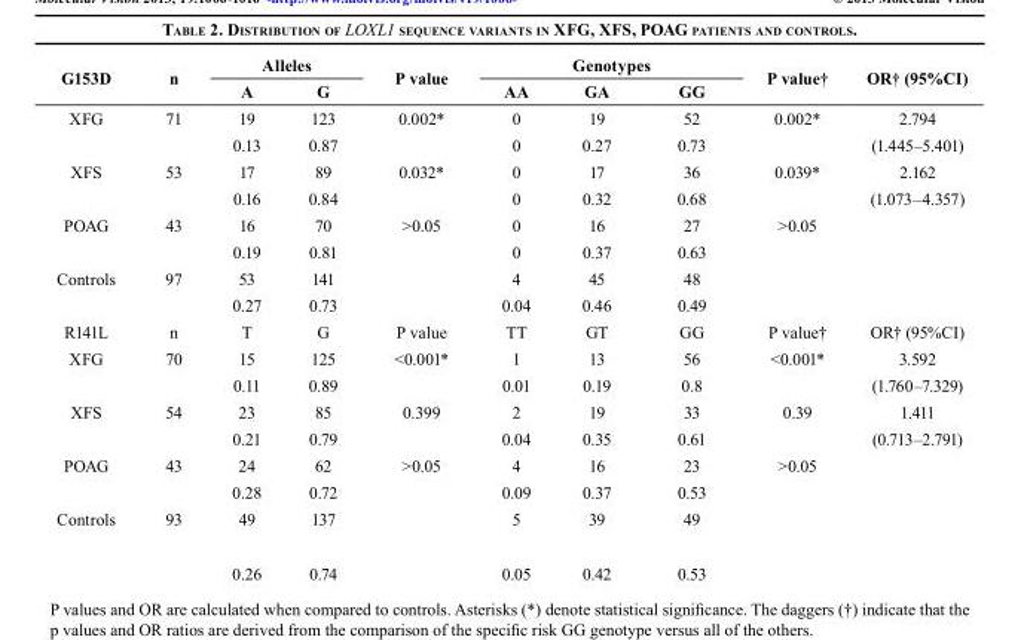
<table><thead><tr><td rowspan="2">G153D</td><td rowspan="2">n</td><td colspan="2">Alleles</td><td rowspan="2">P value</td><td colspan="3">Genotypes</td><td rowspan="2">P value†</td><td rowspan="2">OR† (95%CI)</td></tr><tr><td>A</td><td>G</td><td>AA</td><td>GA</td><td>GG</td></tr></thead><tbody><tr><td rowspan="2">XFG</td><td>71</td><td>19</td><td>123</td><td>0.002*</td><td>0</td><td>19</td><td>52</td><td>0.002*</td><td>2.794</td></tr><tr><td></td><td>0.13</td><td>0.87</td><td></td><td>0</td><td>0.27</td><td>0.73</td><td></td><td>(1.445–5.401)</td></tr><tr><td rowspan="2">XFS</td><td>53</td><td>17</td><td>89</td><td>0.032*</td><td>0</td><td>17</td><td>36</td><td>0.039*</td><td>2.162</td></tr><tr><td></td><td>0.16</td><td>0.84</td><td></td><td>0</td><td>0.32</td><td>0.68</td><td></td><td>(1.073–4.357)</td></tr><tr><td rowspan="2">POAG</td><td>43</td><td>16</td><td>70</td><td>&gt;0.05</td><td>0</td><td>16</td><td>27</td><td>&gt;0.05</td><td></td></tr><tr><td></td><td>0.19</td><td>0.81</td><td></td><td>0</td><td>0.37</td><td>0.63</td><td></td><td></td></tr><tr><td rowspan="2">Controls</td><td>97</td><td>53</td><td>141</td><td></td><td>4</td><td>45</td><td>48</td><td></td><td></td></tr><tr><td></td><td>0.27</td><td>0.73</td><td></td><td>0.04</td><td>0.46</td><td>0.49</td><td></td><td></td></tr><tr><td>R141L</td><td>n</td><td>T</td><td>G</td><td>P value</td><td>TT</td><td>GT</td><td>GG</td><td>P value†</td><td>OR† (95%CI)</td></tr><tr><td rowspan="2">XFG</td><td>70</td><td>15</td><td>125</td><td>&lt;0.001*</td><td>1</td><td>13</td><td>56</td><td>&lt;0.001*</td><td>3.592</td></tr><tr><td></td><td>0.11</td><td>0.89</td><td></td><td>0.01</td><td>0.19</td><td>0.8</td><td></td><td>(1.760–7.329)</td></tr><tr><td rowspan="2">XFS</td><td>54</td><td>23</td><td>85</td><td>0.399</td><td>2</td><td>19</td><td>33</td><td>0.39</td><td>1.411</td></tr><tr><td></td><td>0.21</td><td>0.79</td><td></td><td>0.04</td><td>0.35</td><td>0.61</td><td></td><td>(0.713–2.791)</td></tr><tr><td rowspan="2">POAG</td><td>43</td><td>24</td><td>62</td><td>&gt;0.05</td><td>4</td><td>16</td><td>23</td><td>&gt;0.05</td><td></td></tr><tr><td></td><td>0.28</td><td>0.72</td><td></td><td>0.09</td><td>0.37</td><td>0.53</td><td></td><td></td></tr><tr><td rowspan="2">Controls</td><td>93</td><td>49</td><td>137</td><td></td><td>5</td><td>39</td><td>49</td><td></td><td></td></tr><tr><td></td><td>0.26</td><td>0.74</td><td></td><td>0.05</td><td>0.42</td><td>0.53</td><td></td><td></td></tr></tbody></table>